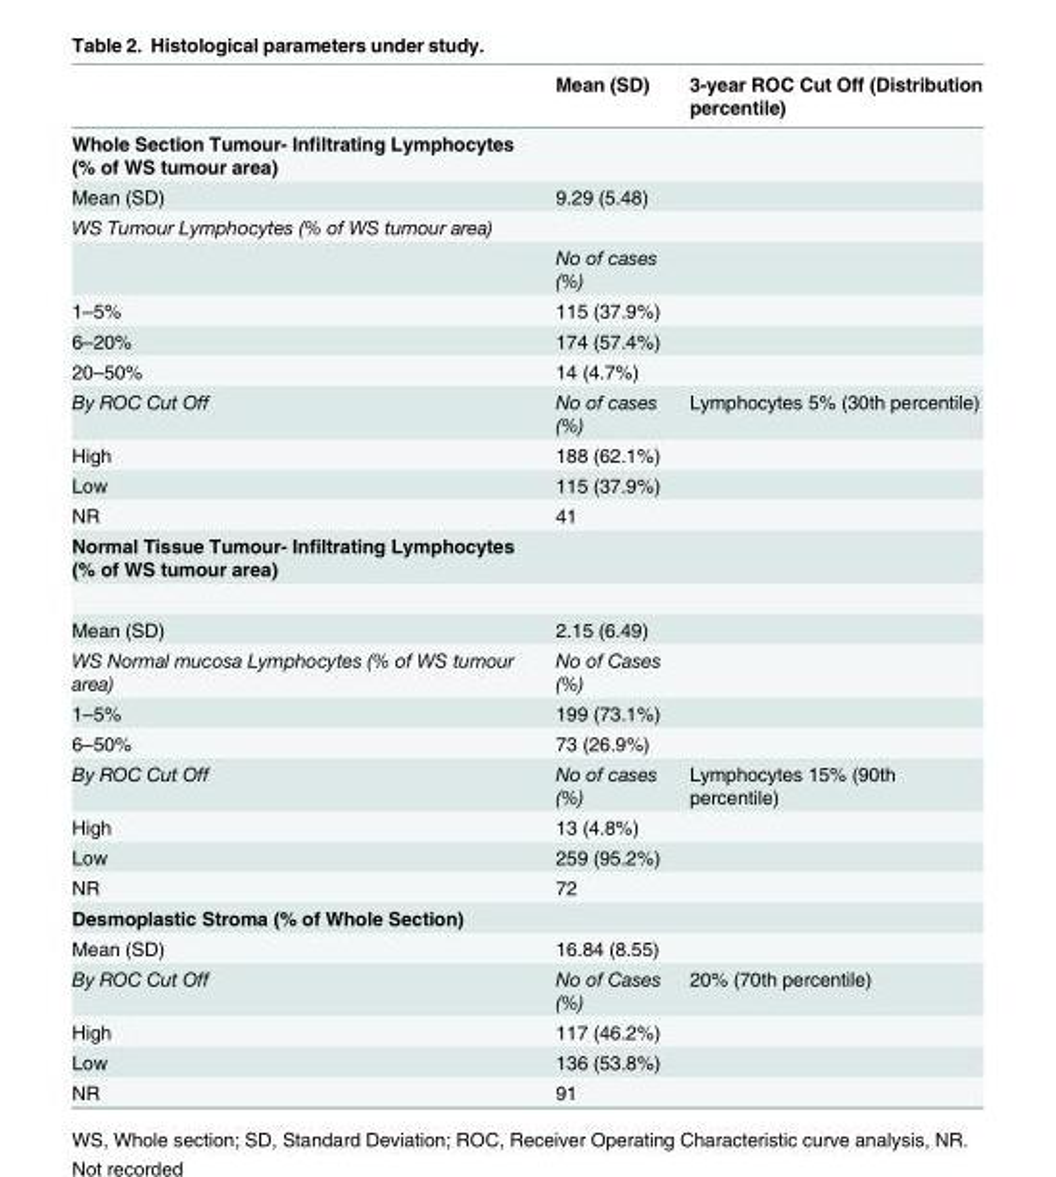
<table><thead><tr><td></td><td>Mean (SD)</td><td>3-year ROC Cut Off (Distribution percentile)</td></tr></thead><tbody><tr><td colspan="3">Whole Section Tumour- Infiltrating Lymphocytes (% of WS tumour area)</td></tr><tr><td>Mean (SD)</td><td>9.29 (5.48)</td><td></td></tr><tr><td colspan="3">WS Tumour Lymphocytes (% of WS tumour area)</td></tr><tr><td></td><td>No of cases (%)</td><td></td></tr><tr><td>1–5%</td><td>115 (37.9%)</td><td></td></tr><tr><td>6–20%</td><td>174 (57.4%)</td><td></td></tr><tr><td>20–50%</td><td>14 (4.7%)</td><td></td></tr><tr><td>By ROC Cut Off</td><td>No of cases (%)</td><td>Lymphocytes 5% (30th percentile)</td></tr><tr><td>High</td><td>188 (62.1%)</td><td></td></tr><tr><td>Low</td><td>115 (37.9%)</td><td></td></tr><tr><td>NR</td><td>41</td><td></td></tr><tr><td colspan="3">Normal Tissue Tumour- Infiltrating Lymphocytes (% of WS tumour area)</td></tr><tr><td>Mean (SD)</td><td>2.15 (6.49)</td><td></td></tr><tr><td>WS Normal mucosa Lymphocytes (% of WS tumour area)</td><td>No of Cases (%)</td><td></td></tr><tr><td>1–5%</td><td>199 (73.1%)</td><td></td></tr><tr><td>6–50%</td><td>73 (26.9%)</td><td></td></tr><tr><td>By ROC Cut Off</td><td>No of cases (%)</td><td>Lymphocytes 15% (90th percentile)</td></tr><tr><td>High</td><td>13 (4.8%)</td><td></td></tr><tr><td>Low</td><td>259 (95.2%)</td><td></td></tr><tr><td>NR</td><td>72</td><td></td></tr><tr><td colspan="3">Desmoplastic Stroma (% of Whole Section)</td></tr><tr><td>Mean (SD)</td><td>16.84 (8.55)</td><td></td></tr><tr><td>By ROC Cut Off</td><td>No of Cases (%)</td><td>20% (70th percentile)</td></tr><tr><td>High</td><td>117 (46.2%)</td><td></td></tr><tr><td>Low</td><td>136 (53.8%)</td><td></td></tr><tr><td>NR</td><td>91</td><td></td></tr></tbody></table>